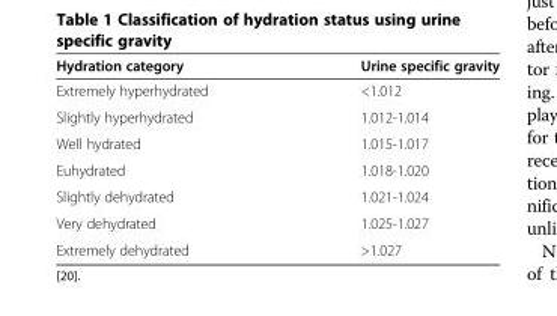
<table><thead><tr><td>Hydration category</td><td>Urine specific gravity</td></tr></thead><tbody><tr><td>Extremely hyperhydrated</td><td>&lt;1.012</td></tr><tr><td>Slightly hyperhydrated</td><td>1.012-1.014</td></tr><tr><td>Well hydrated</td><td>1.015-1.017</td></tr><tr><td>Euhydrated</td><td>1.018-1.020</td></tr><tr><td>Slightly dehydrated</td><td>1.021-1.024</td></tr><tr><td>Very dehydrated</td><td>1.025-1.027</td></tr><tr><td>Extremely dehydrated</td><td>&gt;1.027</td></tr></tbody></table>